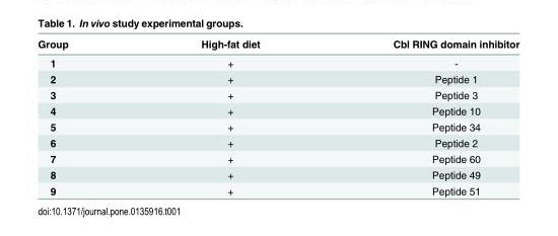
<table><thead><tr><td>Group</td><td>High-fat diet</td><td>Cbl RING domain inhibitor</td></tr></thead><tbody><tr><td>1</td><td>+</td><td>-</td></tr><tr><td>2</td><td>+</td><td>Peptide 1</td></tr><tr><td>3</td><td>+</td><td>Peptide 3</td></tr><tr><td>4</td><td>+</td><td>Peptide 10</td></tr><tr><td>5</td><td>+</td><td>Peptide 34</td></tr><tr><td>6</td><td>+</td><td>Peptide 2</td></tr><tr><td>7</td><td>+</td><td>Peptide 60</td></tr><tr><td>8</td><td>+</td><td>Peptide 49</td></tr><tr><td>9</td><td>+</td><td>Peptide 51</td></tr></tbody></table>